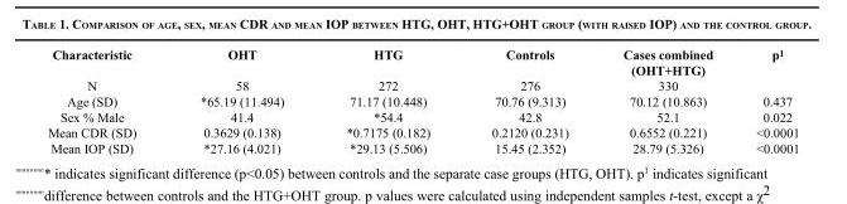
<table><thead><tr><td>Characteristic</td><td>OHT</td><td>HTG</td><td>Controls</td><td>Cases combined (OHT+HTG)</td><td>p<sup>1</sup></td></tr></thead><tbody><tr><td>N</td><td>58</td><td>272</td><td>276</td><td>330</td><td></td></tr><tr><td>Age (SD)</td><td>*65.19 (11.494)</td><td>71.17 (10.448)</td><td>70.76 (9.313)</td><td>70.12 (10.863)</td><td>0.437</td></tr><tr><td>Sex % Male</td><td>41.4</td><td>*54.4</td><td>42.8</td><td>52.1</td><td>0.022</td></tr><tr><td>Mean CDR (SD)</td><td>0.3629 (0.138)</td><td>*0.7175 (0.182)</td><td>0.2120 (0.231)</td><td>0.6552 (0.221)</td><td>&lt;0.0001</td></tr><tr><td>Mean IOP (SD)</td><td>*27.16 (4.021)</td><td>*29.13 (5.506)</td><td>15.45 (2.352)</td><td>28.79 (5.326)</td><td>&lt;0.0001</td></tr></tbody></table>